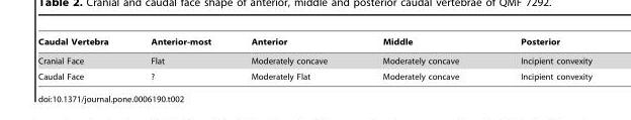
<table><thead><tr><td>Caudal Vertebra</td><td>Anterior-most</td><td>Anterior</td><td>Middle</td><td>Posterior</td></tr></thead><tbody><tr><td>Cranial Face</td><td>Flat</td><td>Moderately concave</td><td>Moderately concave</td><td>Incipient convexity</td></tr><tr><td>Caudal Face</td><td>?</td><td>Moderately Flat</td><td>Moderately concave</td><td>Incipient convexity</td></tr></tbody></table>